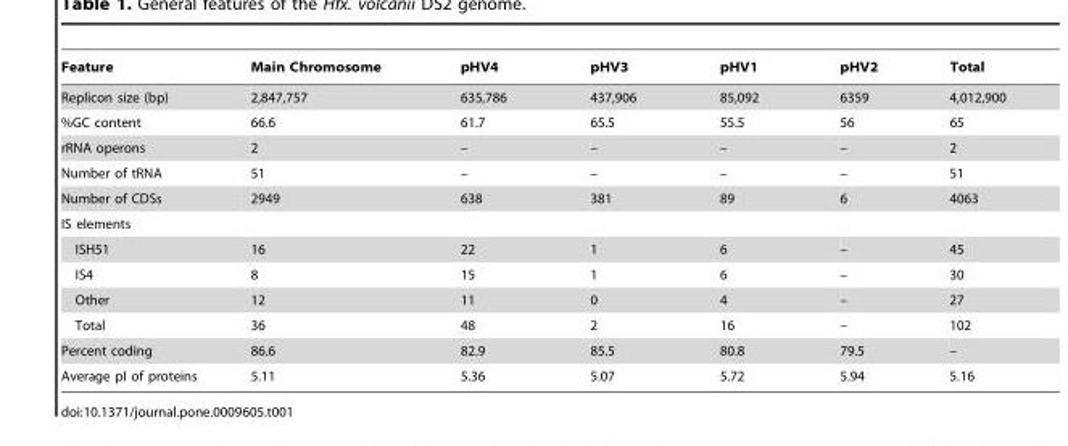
<table><thead><tr><td>Feature</td><td>Main Chromosome</td><td>pHV4</td><td>pHV3</td><td>pHV1</td><td>pHV2</td><td>Total</td></tr></thead><tbody><tr><td>Replicon size (bp)</td><td>2,847,757</td><td>635,786</td><td>437,906</td><td>85,092</td><td>6359</td><td>4,012,900</td></tr><tr><td>%GC content</td><td>66.6</td><td>61.7</td><td>65.5</td><td>55.5</td><td>56</td><td>65</td></tr><tr><td>rRNA operons</td><td>2</td><td>–</td><td>–</td><td>–</td><td>–</td><td>2</td></tr><tr><td>Number of tRNA</td><td>51</td><td>–</td><td>–</td><td>–</td><td>–</td><td>51</td></tr><tr><td>Number of CDSs</td><td>2949</td><td>638</td><td>381</td><td>89</td><td>6</td><td>4063</td></tr><tr><td colspan="7">IS elements</td></tr><tr><td>ISH51</td><td>16</td><td>22</td><td>1</td><td>6</td><td>–</td><td>45</td></tr><tr><td>IS4</td><td>8</td><td>15</td><td>1</td><td>6</td><td>–</td><td>30</td></tr><tr><td>Other</td><td>12</td><td>11</td><td>0</td><td>4</td><td>–</td><td>27</td></tr><tr><td>Total</td><td>36</td><td>48</td><td>2</td><td>16</td><td>–</td><td>102</td></tr><tr><td>Percent coding</td><td>86.6</td><td>82.9</td><td>85.5</td><td>80.8</td><td>79.5</td><td>–</td></tr><tr><td>Average pI of proteins</td><td>5.11</td><td>5.36</td><td>5.07</td><td>5.72</td><td>5.94</td><td>5.16</td></tr></tbody></table>